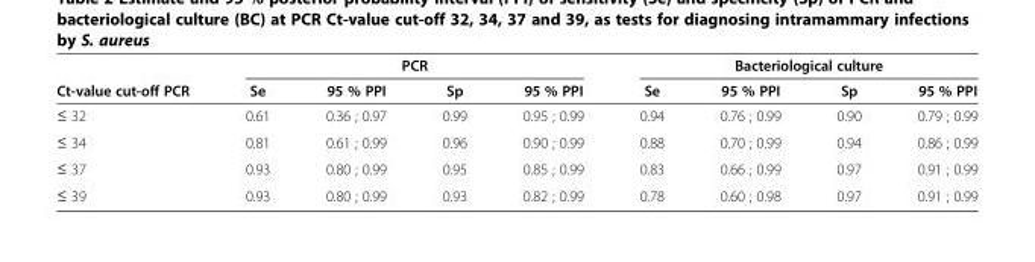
<table><thead><tr><td rowspan="2">Ct-value cut-off PCR</td><td colspan="4">PCR</td><td colspan="4">Bacteriological culture</td></tr><tr><td>Se</td><td>95 % PPI</td><td>Sp</td><td>95 % PPI</td><td>Se</td><td>95 % PPI</td><td>Sp</td><td>95 % PPI</td></tr></thead><tbody><tr><td>≤ 32</td><td>0.61</td><td>0.36 ; 0.97</td><td>0.99</td><td>0.95 ; 0.99</td><td>0.94</td><td>0.76 ; 0.99</td><td>0.90</td><td>0.79 ; 0.99</td></tr><tr><td>≤ 34</td><td>0.81</td><td>0.61 ; 0.99</td><td>0.96</td><td>0.90 ; 0.99</td><td>0.88</td><td>0.70 ; 0.99</td><td>0.94</td><td>0.86 ; 0.99</td></tr><tr><td>≤ 37</td><td>0.93</td><td>0.80 ; 0.99</td><td>0.95</td><td>0.85 ; 0.99</td><td>0.83</td><td>0.66 ; 0.99</td><td>0.97</td><td>0.91 ; 0.99</td></tr><tr><td>≤ 39</td><td>0.93</td><td>0.80 ; 0.99</td><td>0.93</td><td>0.82 ; 0.99</td><td>0.78</td><td>0.60 ; 0.98</td><td>0.97</td><td>0.91 ; 0.99</td></tr></tbody></table>